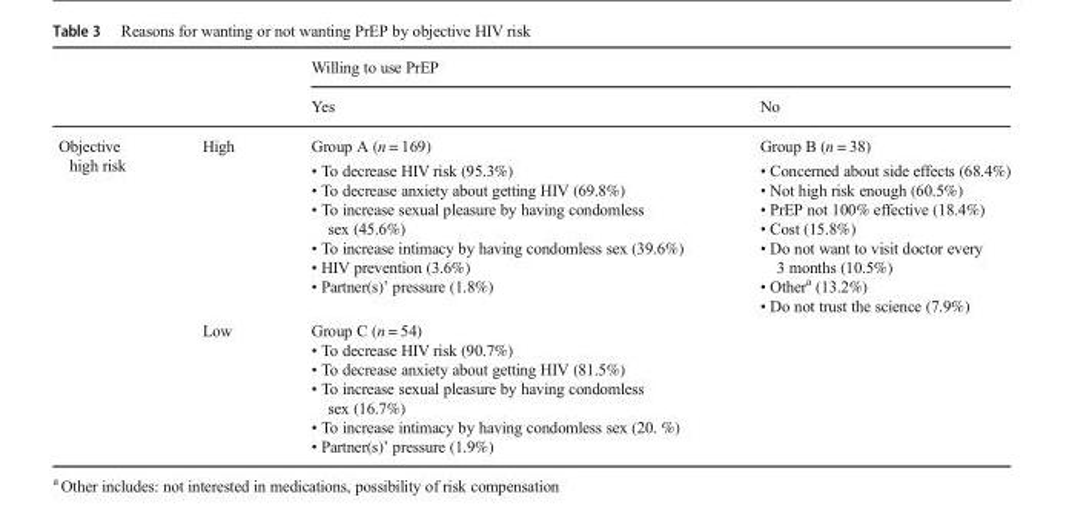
<table><thead><tr><td rowspan="2"></td><td rowspan="2"></td><td colspan="2">Willing to use PrEP</td></tr><tr><td>Yes</td><td>No</td></tr></thead><tbody><tr><td rowspan="4">Objective high risk</td><td rowspan="2">High</td><td>Group A (n = 169)</td><td>Group B (n = 38)</td></tr><tr><td>• To decrease HIV risk (95.3%) • To decrease anxiety about getting HIV (69.8%) • To increase sexual pleasure by having condomless sex (45.6%) • To increase intimacy by having condomless sex (39.6%) • HIV prevention (3.6%) • Partner(s)’ pressure (1.8%)</td><td>• Concerned about side effects (68.4%) • Not high risk enough (60.5%) • PrEP not 100% effective (18.4%) • Cost (15.8%) • Do not want to visit doctor every 3 months (10.5%) • Other<sup>a</sup> (13.2%) • Do not trust the science (7.9%)</td></tr><tr><td rowspan="2">Low</td><td>Group C (n = 54)</td><td rowspan="2"></td></tr><tr><td>• To decrease HIV risk (90.7%) • To decrease anxiety about getting HIV (81.5%) • To increase sexual pleasure by having condomless sex (16.7%) • To increase intimacy by having condomless sex (20. %) • Partner(s)’ pressure (1.9%)</td></tr></tbody></table>